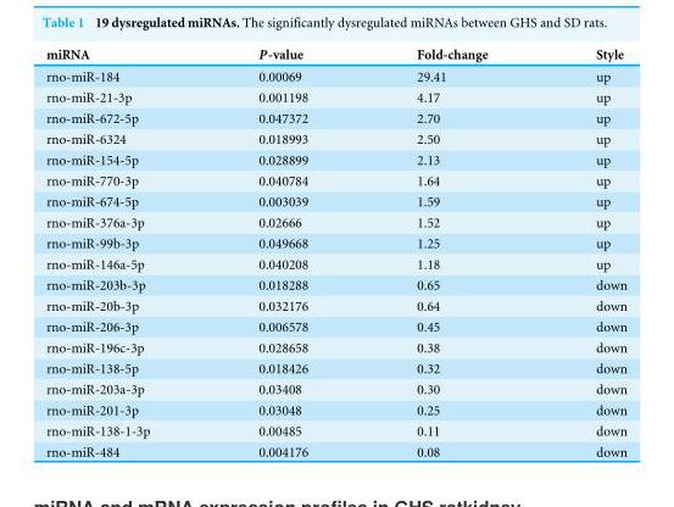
<table><thead><tr><td>miRNA</td><td>P-value</td><td>Fold-change</td><td>Style</td></tr></thead><tbody><tr><td>rno-miR-184</td><td>0.00069</td><td>29.41</td><td>up</td></tr><tr><td>rno-miR-21-3p</td><td>0.001198</td><td>4.17</td><td>up</td></tr><tr><td>rno-miR-672-5p</td><td>0.047372</td><td>2.70</td><td>up</td></tr><tr><td>rno-miR-6324</td><td>0.018993</td><td>2.50</td><td>up</td></tr><tr><td>rno-miR-154-5p</td><td>0.028899</td><td>2.13</td><td>up</td></tr><tr><td>rno-miR-770-3p</td><td>0.040784</td><td>1.64</td><td>up</td></tr><tr><td>rno-miR-674-5p</td><td>0.003039</td><td>1.59</td><td>up</td></tr><tr><td>rno-miR-376a-3p</td><td>0.02666</td><td>1.52</td><td>up</td></tr><tr><td>rno-miR-99b-3p</td><td>0.049668</td><td>1.25</td><td>up</td></tr><tr><td>rno-miR-146a-5p</td><td>0.040208</td><td>1.18</td><td>up</td></tr><tr><td>rno-miR-203b-3p</td><td>0.018288</td><td>0.65</td><td>down</td></tr><tr><td>rno-miR-20b-3p</td><td>0.032176</td><td>0.64</td><td>down</td></tr><tr><td>rno-miR-206-3p</td><td>0.006578</td><td>0.45</td><td>down</td></tr><tr><td>rno-miR-196c-3p</td><td>0.028658</td><td>0.38</td><td>down</td></tr><tr><td>rno-miR-138-5p</td><td>0.018426</td><td>0.32</td><td>down</td></tr><tr><td>rno-miR-203a-3p</td><td>0.03408</td><td>0.30</td><td>down</td></tr><tr><td>rno-miR-201-3p</td><td>0.03048</td><td>0.25</td><td>down</td></tr><tr><td>rno-miR-138-1-3p</td><td>0.00485</td><td>0.11</td><td>down</td></tr><tr><td>rno-miR-484</td><td>0.004176</td><td>0.08</td><td>down</td></tr></tbody></table>